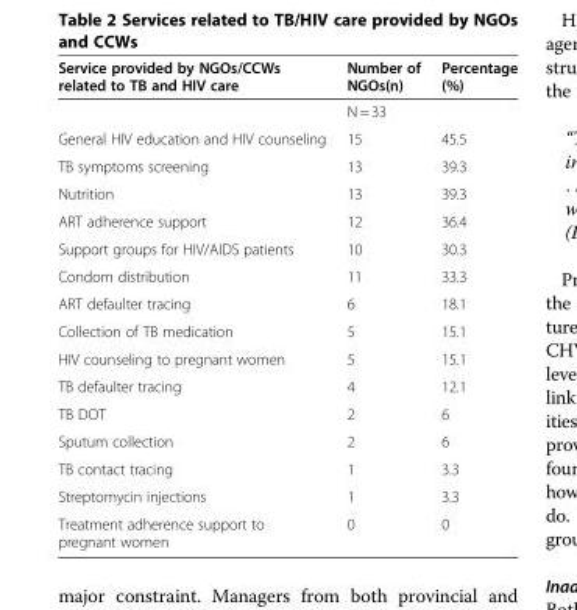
<table><thead><tr><td>Service provided by NGOs/CCWs related to TB and HIV care</td><td>Number of NGOs(n)</td><td>Percentage (%)</td></tr></thead><tbody><tr><td></td><td>N = 33</td><td></td></tr><tr><td>General HIV education and HIV counseling</td><td>15</td><td>45.5</td></tr><tr><td>TB symptoms screening</td><td>13</td><td>39.3</td></tr><tr><td>Nutrition</td><td>13</td><td>39.3</td></tr><tr><td>ART adherence support</td><td>12</td><td>36.4</td></tr><tr><td>Support groups for HIV/AIDS patients</td><td>10</td><td>30.3</td></tr><tr><td>Condom distribution</td><td>11</td><td>33.3</td></tr><tr><td>ART defaulter tracing</td><td>6</td><td>18.1</td></tr><tr><td>Collection of TB medication</td><td>5</td><td>15.1</td></tr><tr><td>HIV counseling to pregnant women</td><td>5</td><td>15.1</td></tr><tr><td>TB defaulter tracing</td><td>4</td><td>12.1</td></tr><tr><td>TB DOT</td><td>2</td><td>6</td></tr><tr><td>Sputum collection</td><td>2</td><td>6</td></tr><tr><td>TB contact tracing</td><td>1</td><td>3.3</td></tr><tr><td>Streptomycin injections</td><td>1</td><td>3.3</td></tr><tr><td>Treatment adherence support to pregnant women</td><td>0</td><td>0</td></tr></tbody></table>